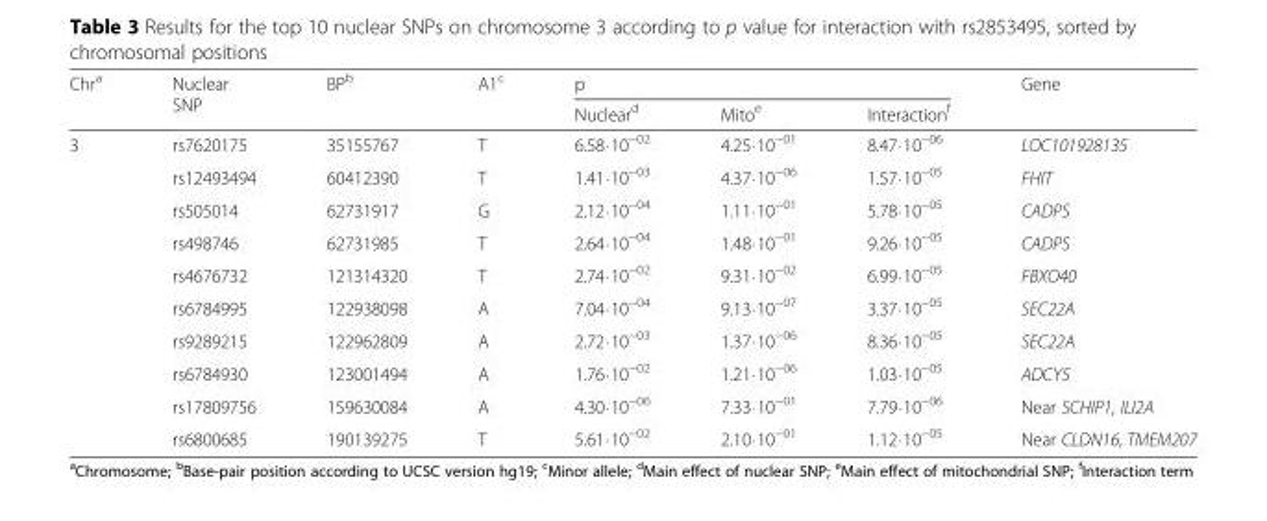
<table><thead><tr><td rowspan="2">Chr<sup>a</sup></td><td rowspan="2">Nuclear SNP</td><td rowspan="2">BP<sup>b</sup></td><td rowspan="2">A1<sup>c</sup></td><td colspan="3">p</td><td rowspan="2">Gene</td></tr><tr><td>Nuclear<sup>d</sup></td><td>Mito<sup>e</sup></td><td>Interaction<sup>f</sup></td></tr></thead><tbody><tr><td rowspan="10">3</td><td>rs7620175</td><td>35155767</td><td>T</td><td>6.58⋅10<sup>−02</sup></td><td>4.25⋅10<sup>−01</sup></td><td>8.47⋅10<sup>−06</sup></td><td>LOC101928135</td></tr><tr><td>rs12493494</td><td>60412390</td><td>T</td><td>1.41⋅10<sup>−03</sup></td><td>4.37⋅10<sup>−06</sup></td><td>1.57⋅10<sup>−05</sup></td><td>FHIT</td></tr><tr><td>rs505014</td><td>62731917</td><td>G</td><td>2.12⋅10<sup>−04</sup></td><td>1.11⋅10<sup>−01</sup></td><td>5.78⋅10<sup>−05</sup></td><td>CADPS</td></tr><tr><td>rs498746</td><td>62731985</td><td>T</td><td>2.64⋅10<sup>−04</sup></td><td>1.48⋅10<sup>−01</sup></td><td>9.26⋅10<sup>−05</sup></td><td>CADPS</td></tr><tr><td>rs4676732</td><td>121314320</td><td>T</td><td>2.74⋅10<sup>−02</sup></td><td>9.31⋅10<sup>−02</sup></td><td>6.99⋅10<sup>−05</sup></td><td>FBXO40</td></tr><tr><td>rs6784995</td><td>122938098</td><td>A</td><td>7.04⋅10<sup>−04</sup></td><td>9.13⋅10<sup>−07</sup></td><td>3.37⋅10<sup>−05</sup></td><td>SEC22A</td></tr><tr><td>rs9289215</td><td>122962809</td><td>A</td><td>2.72⋅10<sup>−03</sup></td><td>1.37⋅10<sup>−06</sup></td><td>8.36⋅10<sup>−05</sup></td><td>SEC22A</td></tr><tr><td>rs6784930</td><td>123001494</td><td>A</td><td>1.76⋅10<sup>−02</sup></td><td>1.21⋅10<sup>−06</sup></td><td>1.03⋅10<sup>−05</sup></td><td>ADCY5</td></tr><tr><td>rs17809756</td><td>159630084</td><td>A</td><td>4.30⋅10<sup>−06</sup></td><td>7.33⋅10<sup>−01</sup></td><td>7.79⋅10<sup>−06</sup></td><td>Near SCHIP1, ILI2A</td></tr><tr><td>rs6800685</td><td>190139275</td><td>T</td><td>5.61⋅10<sup>−02</sup></td><td>2.10⋅10<sup>−01</sup></td><td>1.12⋅10<sup>−05</sup></td><td>Near CLDN16, TMEM207</td></tr></tbody></table>